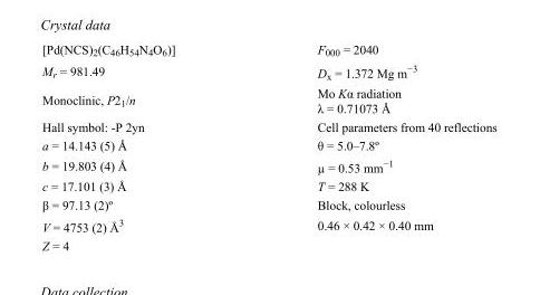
<table><tbody><tr><td>[Pd(NCS)<sub>2</sub>(C<sub>46</sub>H<sub>54</sub>N<sub>4</sub>O<sub>6</sub>)]</td><td>F000 = 2040</td></tr><tr><td>M<sub>r</sub> = 981.49</td><td>D<sub>x</sub> = 1.372 Mg m<sup>−3</sup></td></tr><tr><td>Monoclinic, P2<sub>1</sub>/n</td><td>Mo Kα radiation λ = 0.71073 Å</td></tr><tr><td>Hall symbol: -P 2yn</td><td>Cell parameters from 40 reflections</td></tr><tr><td>a = 14.143 (5) Å</td><td>θ = 5.0–7.8º</td></tr><tr><td>b = 19.803 (4) Å</td><td>µ = 0.53 mm<sup>−1</sup></td></tr><tr><td>c = 17.101 (3) Å</td><td>T = 288 K</td></tr><tr><td>β = 97.13 (2)º</td><td>Block, colourless</td></tr><tr><td>V = 4753 (2) Å<sup>3</sup></td><td>0.46 × 0.42 × 0.40 mm</td></tr><tr><td>Z = 4</td><td></td></tr></tbody></table>